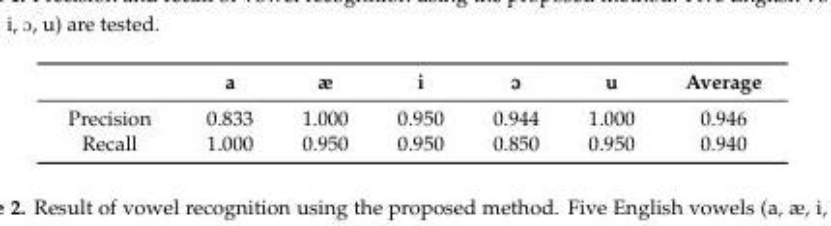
<table><thead><tr><td></td><td>a</td><td>æ</td><td>i</td><td>OOO</td><td>u</td><td>Average</td></tr></thead><tbody><tr><td>Precision</td><td>0.833</td><td>1.000</td><td>0.950</td><td>0.944</td><td>1.000</td><td>0.946</td></tr><tr><td>Recall</td><td>1.000</td><td>0.950</td><td>0.950</td><td>0.850</td><td>0.950</td><td>0.940</td></tr></tbody></table>